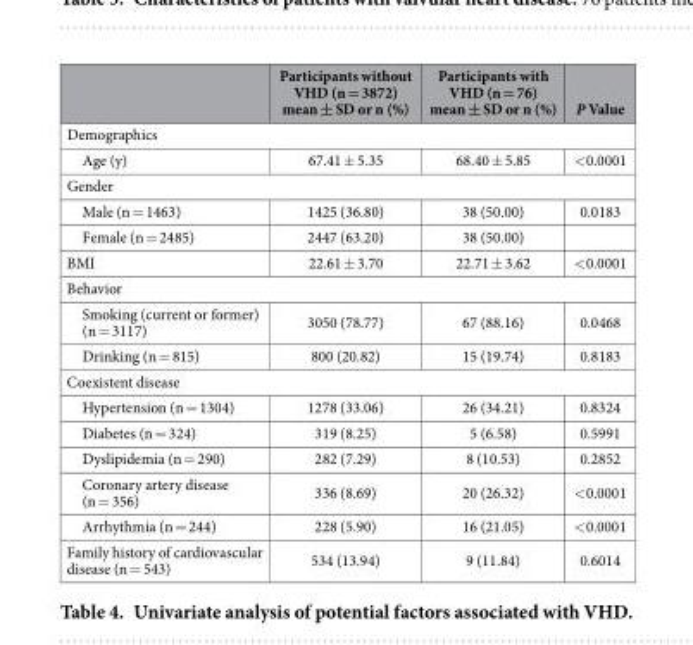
<table><thead><tr><td></td><td>Participants without VHD (n = 3872) mean ± SD or n (%)</td><td>Participants with VHD (n = 76) mean ± SD or n (%)</td><td>P Value</td></tr></thead><tbody><tr><td colspan="4">Demographics</td></tr><tr><td>Age (y)</td><td>67.41 ± 5.35</td><td>68.40 ± 5.85</td><td>&lt; 0.0001</td></tr><tr><td colspan="4">Gender</td></tr><tr><td>Male (n = 1463)</td><td>1425 (36.80)</td><td>38 (50.00)</td><td>0.0183</td></tr><tr><td>Female (n = 2485)</td><td>2447 (63.20)</td><td>38 (50.00)</td><td></td></tr><tr><td>BMI</td><td>22.61 ± 3.70</td><td>22.71 ± 3.62</td><td>&lt; 0.0001</td></tr><tr><td colspan="4">Behavior</td></tr><tr><td>Smoking (current or former) (n = 3117)</td><td>3050 (78.77)</td><td>67 (88.16)</td><td>0.0468</td></tr><tr><td>Drinking (n = 815)</td><td>800 (20.82)</td><td>15 (19.74)</td><td>0.8183</td></tr><tr><td colspan="4">Coexistent disease</td></tr><tr><td>Hypertension (n = 1304)</td><td>1278 (33.06)</td><td>26 (34.21)</td><td>0.8324</td></tr><tr><td>Diabetes (n = 324)</td><td>319 (8.25)</td><td>5 (6.58)</td><td>0.5991</td></tr><tr><td>Dyslipidemia (n = 290)</td><td>282 (7.29)</td><td>8 (10.53)</td><td>0.2852</td></tr><tr><td>Coronary artery disease (n = 356)</td><td>336 (8.69)</td><td>20 (26.32)</td><td>&lt; 0.0001</td></tr><tr><td>Arrhythmia (n = 244)</td><td>228 (5.90)</td><td>16 (21.05)</td><td>&lt; 0.0001</td></tr><tr><td>Family history of cardiovascular disease (n = 543)</td><td>534 (13.94)</td><td>9 (11.84)</td><td>0.6014</td></tr></tbody></table>